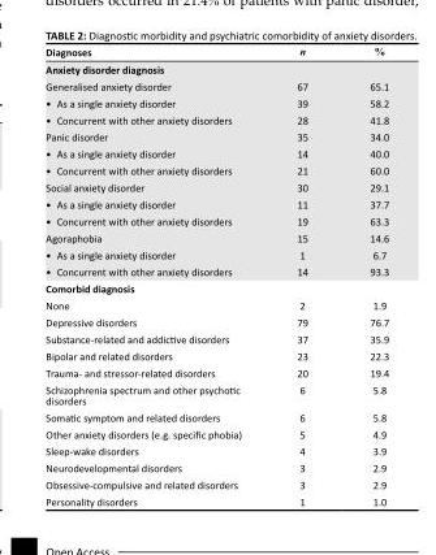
<table><thead><tr><td>Diagnoses</td><td>n</td><td>%</td></tr></thead><tbody><tr><td colspan="3">Anxiety disorder diagnosis</td></tr><tr><td>Generalised anxiety disorder</td><td>67</td><td>65.1</td></tr><tr><td>• As a single anxiety disorder</td><td>39</td><td>58.2</td></tr><tr><td>• Concurrent with other anxiety disorders</td><td>28</td><td>41.8</td></tr><tr><td>Panic disorder</td><td>35</td><td>34.0</td></tr><tr><td>• As a single anxiety disorder</td><td>14</td><td>40.0</td></tr><tr><td>• Concurrent with other anxiety disorders</td><td>21</td><td>60.0</td></tr><tr><td>Social anxiety disorder</td><td>30</td><td>29.1</td></tr><tr><td>• As a single anxiety disorder</td><td>11</td><td>37.7</td></tr><tr><td>• Concurrent with other anxiety disorders</td><td>19</td><td>63.3</td></tr><tr><td>Agoraphobia</td><td>15</td><td>14.6</td></tr><tr><td>• As a single anxiety disorder</td><td>1</td><td>6.7</td></tr><tr><td>• Concurrent with other anxiety disorders</td><td>14</td><td>93.3</td></tr><tr><td colspan="3">Comorbid diagnosis</td></tr><tr><td>None</td><td>2</td><td>1.9</td></tr><tr><td>Depressive disorders</td><td>79</td><td>76.7</td></tr><tr><td>Substance-related and addictive disorders</td><td>37</td><td>35.9</td></tr><tr><td>Bipolar and related disorders</td><td>23</td><td>22.3</td></tr><tr><td>Trauma- and stressor-related disorders</td><td>20</td><td>19.4</td></tr><tr><td>Schizophrenia spectrum and other psychotic disorders</td><td>6</td><td>5.8</td></tr><tr><td>Somatic symptom and related disorders</td><td>6</td><td>5.8</td></tr><tr><td>Other anxiety disorders (e.g. specific phobia)</td><td>5</td><td>4.9</td></tr><tr><td>Sleep-wake disorders</td><td>4</td><td>3.9</td></tr><tr><td>Neurodevelopmental disorders</td><td>3</td><td>2.9</td></tr><tr><td>Obsessive-compulsive and related disorders</td><td>3</td><td>2.9</td></tr><tr><td>Personality disorders</td><td>1</td><td>1.0</td></tr></tbody></table>